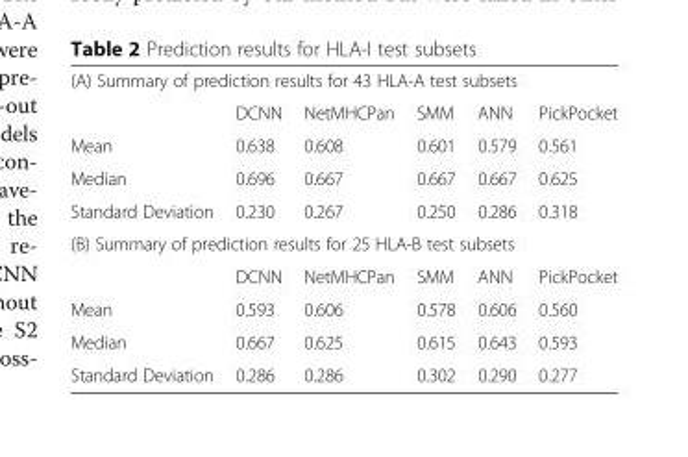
<table><tbody><tr><td colspan="6">(A) Summary of prediction results for 43 HLA-A test subsets</td></tr><tr><td></td><td>DCNN</td><td>NetMHCPan</td><td>SMM</td><td>ANN</td><td>PickPocket</td></tr><tr><td>Mean</td><td>0.638</td><td>0.608</td><td>0.601</td><td>0.579</td><td>0.561</td></tr><tr><td>Median</td><td>0.696</td><td>0.667</td><td>0.667</td><td>0.667</td><td>0.625</td></tr><tr><td>Standard Deviation</td><td>0.230</td><td>0.267</td><td>0.250</td><td>0.286</td><td>0.318</td></tr><tr><td colspan="6">(B) Summary of prediction results for 25 HLA-B test subsets</td></tr><tr><td></td><td>DCNN</td><td>NetMHCPan</td><td>SMM</td><td>ANN</td><td>PickPocket</td></tr><tr><td>Mean</td><td>0.593</td><td>0.606</td><td>0.578</td><td>0.606</td><td>0.560</td></tr><tr><td>Median</td><td>0.667</td><td>0.625</td><td>0.615</td><td>0.643</td><td>0.593</td></tr><tr><td>Standard Deviation</td><td>0.286</td><td>0.286</td><td>0.302</td><td>0.290</td><td>0.277</td></tr></tbody></table>